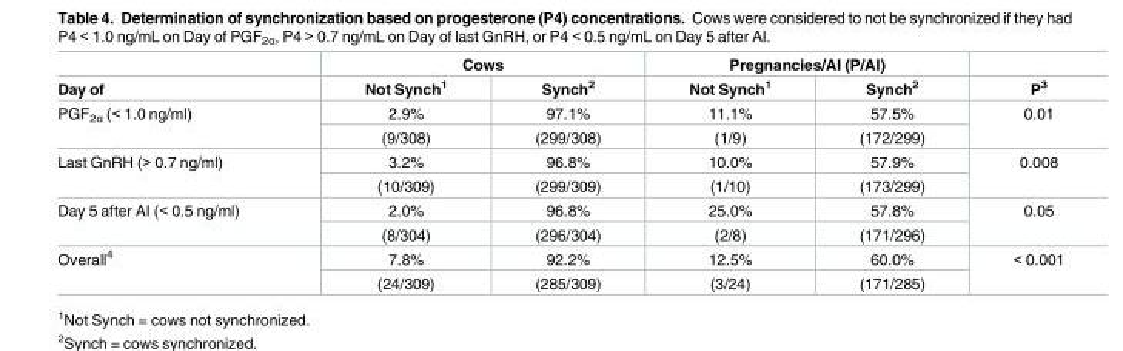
<table><thead><tr><td rowspan="2">Day of</td><td colspan="2">Cows</td><td colspan="2">Pregnancies/AI (P/AI)</td><td rowspan="2">P<sup>3</sup></td></tr><tr><td>Not Synch<sup>1</sup></td><td>Synch<sup>2</sup></td><td>Not Synch<sup>1</sup></td><td>Synch<sup>2</sup></td></tr></thead><tbody><tr><td rowspan="2">PGF<sub>2α</sub> (&lt; 1.0 ng/ml)</td><td>2.9%</td><td>97.1%</td><td>11.1%</td><td>57.5%</td><td rowspan="2">0.01</td></tr><tr><td>(9/308)</td><td>(299/308)</td><td>(1/9)</td><td>(172/299)</td></tr><tr><td rowspan="2">Last GnRH (&gt; 0.7 ng/ml)</td><td>3.2%</td><td>96.8%</td><td>10.0%</td><td>57.9%</td><td rowspan="2">0.008</td></tr><tr><td>(10/309)</td><td>(299/309)</td><td>(1/10)</td><td>(173/299)</td></tr><tr><td rowspan="2">Day 5 after AI (&lt; 0.5 ng/ml)</td><td>2.0%</td><td>96.8%</td><td>25.0%</td><td>57.8%</td><td rowspan="2">0.05</td></tr><tr><td>(8/304)</td><td>(296/304)</td><td>(2/8)</td><td>(171/296)</td></tr><tr><td rowspan="2">Overall<sup>4</sup></td><td>7.8%</td><td>92.2%</td><td>12.5%</td><td>60.0%</td><td rowspan="2">&lt; 0.001</td></tr><tr><td>(24/309)</td><td>(285/309)</td><td>(3/24)</td><td>(171/285)</td></tr></tbody></table>